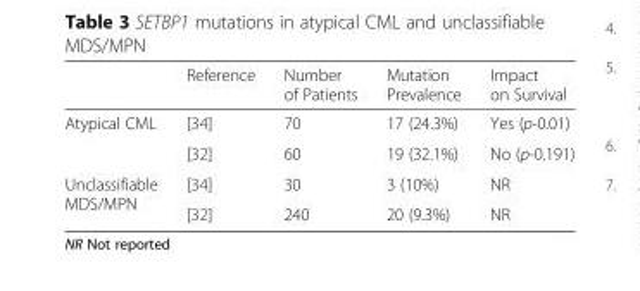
<table><thead><tr><td></td><td>Reference</td><td>Number of Patients</td><td>Mutation Prevalence</td><td>Impact on Survival</td></tr></thead><tbody><tr><td rowspan="2">Atypical CML</td><td>[34]</td><td>70</td><td>17 (24.3%)</td><td>Yes (p-0.01)</td></tr><tr><td>[32]</td><td>60</td><td>19 (32.1%)</td><td>No (p-0.191)</td></tr><tr><td rowspan="2">Unclassifiable MDS/MPN</td><td>[34]</td><td>30</td><td>3 (10%)</td><td>NR</td></tr><tr><td>[32]</td><td>240</td><td>20 (9.3%)</td><td>NR</td></tr></tbody></table>